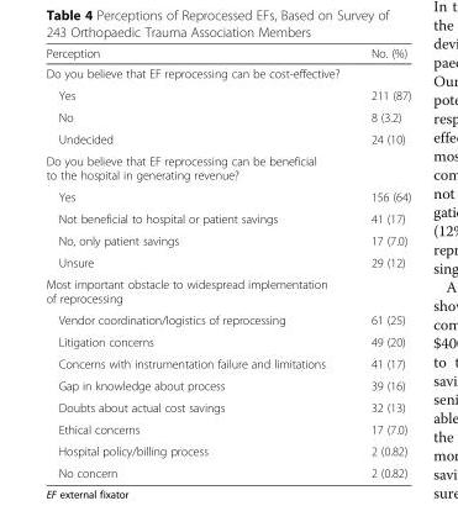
<table><thead><tr><td>Perception</td><td>No. (%)</td></tr></thead><tbody><tr><td colspan="2">Do you believe that EF reprocessing can be cost-effective?</td></tr><tr><td>Yes</td><td>211 (87)</td></tr><tr><td>No</td><td>8 (3.2)</td></tr><tr><td>Undecided</td><td>24 (10)</td></tr><tr><td colspan="2">Do you believe that EF reprocessing can be beneficial to the hospital in generating revenue?</td></tr><tr><td>Yes</td><td>156 (64)</td></tr><tr><td>Not beneficial to hospital or patient savings</td><td>41 (17)</td></tr><tr><td>No, only patient savings</td><td>17 (7.0)</td></tr><tr><td>Unsure</td><td>29 (12)</td></tr><tr><td colspan="2">Most important obstacle to widespread implementation of reprocessing</td></tr><tr><td>Vendor coordination/logistics of reprocessing</td><td>61 (25)</td></tr><tr><td>Litigation concerns</td><td>49 (20)</td></tr><tr><td>Concerns with instrumentation failure and limitations</td><td>41 (17)</td></tr><tr><td>Gap in knowledge about process</td><td>39 (16)</td></tr><tr><td>Doubts about actual cost savings</td><td>32 (13)</td></tr><tr><td>Ethical concerns</td><td>17 (7.0)</td></tr><tr><td>Hospital policy/billing process</td><td>2 (0.82)</td></tr><tr><td>No concern</td><td>2 (0.82)</td></tr></tbody></table>